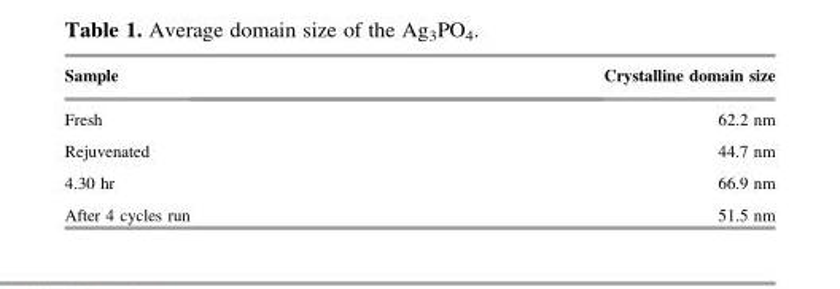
<table><thead><tr><td>Sample</td><td>Crystalline domain size</td></tr></thead><tbody><tr><td>Fresh</td><td>62.2 nm</td></tr><tr><td>Rejuvenated</td><td>44.7 nm</td></tr><tr><td>4.30 hr</td><td>66.9 nm</td></tr><tr><td>After 4 cycles run</td><td>51.5 nm</td></tr></tbody></table>